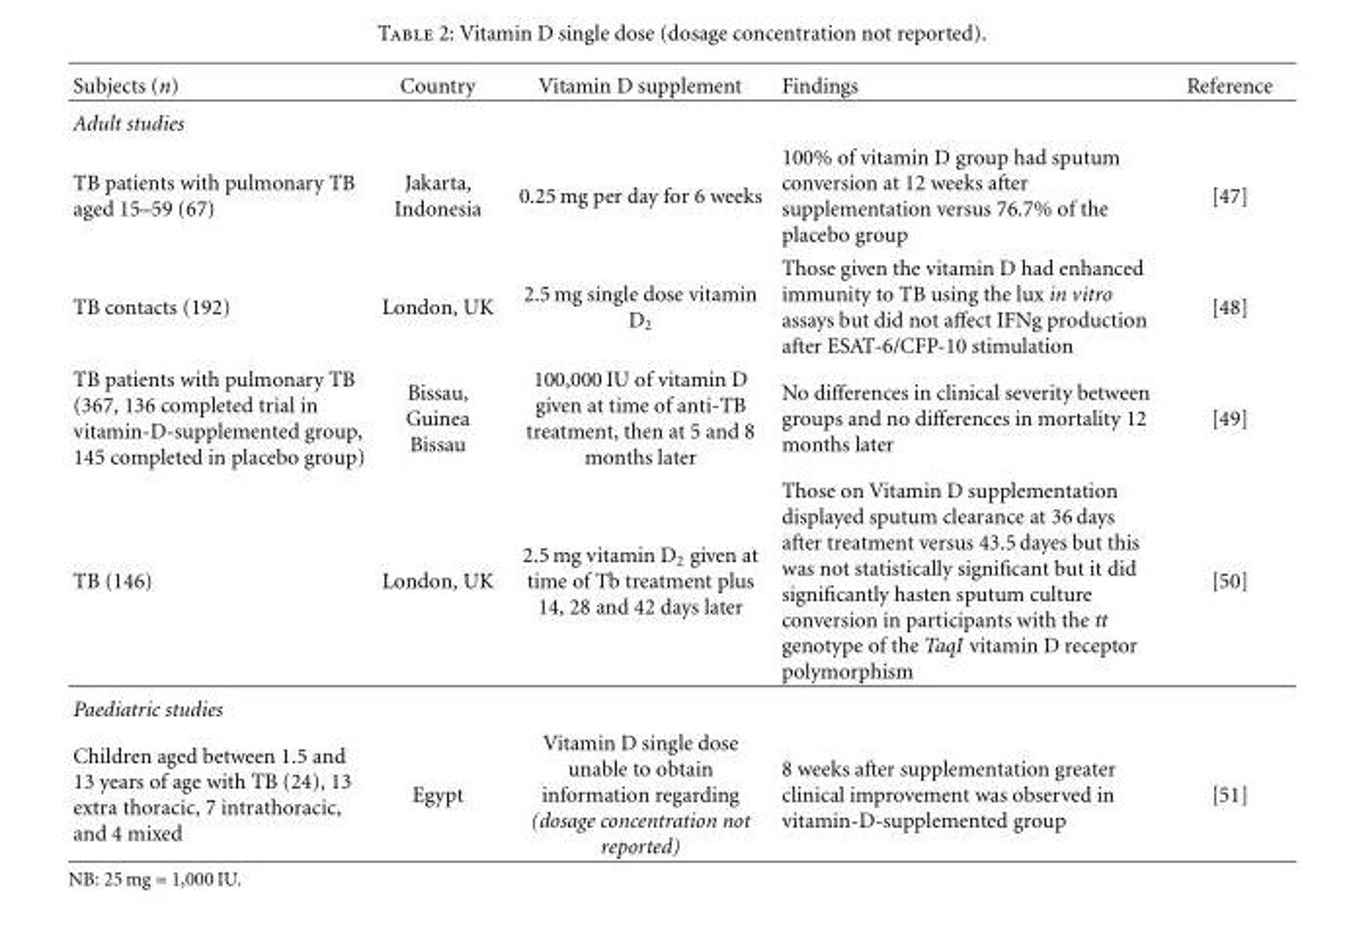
<table><thead><tr><td>Subjects (n)</td><td>Country</td><td>Vitamin D supplement</td><td>Findings</td><td>Reference</td></tr></thead><tbody><tr><td colspan="5">Adult studies</td></tr><tr><td>TB patients with pulmonary TB aged 15–59 (67)</td><td>Jakarta, Indonesia</td><td>0.25 mg per day for 6 weeks</td><td>100% of vitamin D group had sputum conversion at 12 weeks after supplementation versus 76.7% of the placebo group</td><td>[47]</td></tr><tr><td>TB contacts (192)</td><td>London, UK</td><td>2.5 mg single dose vitamin D<sub>2</sub></td><td>Those given the vitamin D had enhanced immunity to TB using the lux in vitro assays but did not affect IFNg production after ESAT-6/CFP-10 stimulation</td><td>[48]</td></tr><tr><td>TB patients with pulmonary TB (367, 136 completed trial in vitamin-D-supplemented group, 145 completed in placebo group)</td><td>Bissau, Guinea Bissau</td><td>100,000 IU of vitamin D given at time of anti-TB treatment, then at 5 and 8 months later</td><td>No differences in clinical severity between groups and no differences in mortality 12 months later</td><td>[49]</td></tr><tr><td>TB (146)</td><td>London, UK</td><td>2.5 mg vitamin D<sub>2</sub> given at time of Tb treatment plus 14, 28 and 42 days later</td><td>Those on Vitamin D supplementation displayed sputum clearance at 36 days after treatment versus 43.5 dayes but this was not statistically significant but it did significantly hasten sputum culture conversion in participants with the tt genotype of the TaqI vitamin D receptor polymorphism</td><td>[50]</td></tr><tr><td colspan="5">Paediatric studies</td></tr><tr><td>Children aged between 1.5 and 13 years of age with TB (24), 13 extra thoracic, 7 intrathoracic, and 4 mixed</td><td>Egypt</td><td>Vitamin D single dose unable to obtain information regarding (dosage concentration not reported)</td><td>8 weeks after supplementation greater clinical improvement was observed in vitamin-D-supplemented group</td><td>[51]</td></tr></tbody></table>